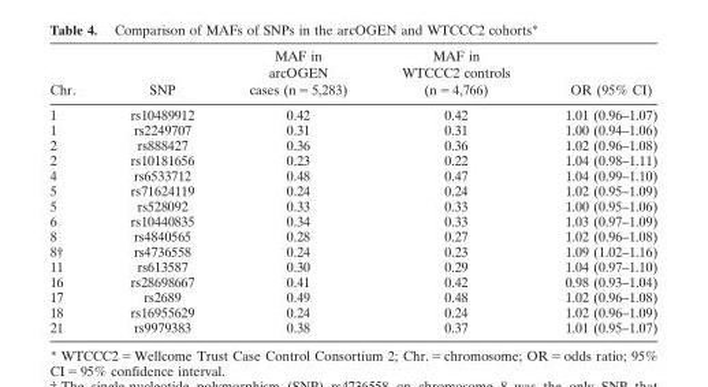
<table><thead><tr><td>Chr.</td><td>SNP</td><td>MAF in arcOGEN cases (n = 5,283)</td><td>MAF in WTCCC2 controls (n = 4,766)</td><td>OR (95% CI)</td></tr></thead><tbody><tr><td>1</td><td>rs10489912</td><td>0.42</td><td>0.42</td><td>1.01 (0.96–1.07)</td></tr><tr><td>1</td><td>rs2249707</td><td>0.31</td><td>0.31</td><td>1.00 (0.94–1.06)</td></tr><tr><td>2</td><td>rs888427</td><td>0.36</td><td>0.36</td><td>1.02 (0.96–1.08)</td></tr><tr><td>2</td><td>rs10181656</td><td>0.23</td><td>0.22</td><td>1.04 (0.98–1.11)</td></tr><tr><td>4</td><td>rs6533712</td><td>0.48</td><td>0.47</td><td>1.04 (0.99–1.10)</td></tr><tr><td>5</td><td>rs71624119</td><td>0.24</td><td>0.24</td><td>1.02 (0.95–1.09)</td></tr><tr><td>5</td><td>rs528092</td><td>0.33</td><td>0.33</td><td>1.00 (0.95–1.06)</td></tr><tr><td>6</td><td>rs10440835</td><td>0.34</td><td>0.33</td><td>1.03 (0.97–1.09)</td></tr><tr><td>8</td><td>rs4840565</td><td>0.28</td><td>0.27</td><td>1.02 (0.96–1.08)</td></tr><tr><td>8†</td><td>rs4736558</td><td>0.24</td><td>0.23</td><td>1.09 (1.02–1.16)</td></tr><tr><td>11</td><td>rs613587</td><td>0.30</td><td>0.29</td><td>1.04 (0.97–1.10)</td></tr><tr><td>16</td><td>rs28698667</td><td>0.41</td><td>0.42</td><td>0.98 (0.93–1.04)</td></tr><tr><td>17</td><td>rs2689</td><td>0.49</td><td>0.48</td><td>1.02 (0.96–1.08)</td></tr><tr><td>18</td><td>rs16955629</td><td>0.24</td><td>0.24</td><td>1.02 (0.96–1.09)</td></tr><tr><td>21</td><td>rs9979383</td><td>0.38</td><td>0.37</td><td>1.01 (0.95–1.07)</td></tr></tbody></table>